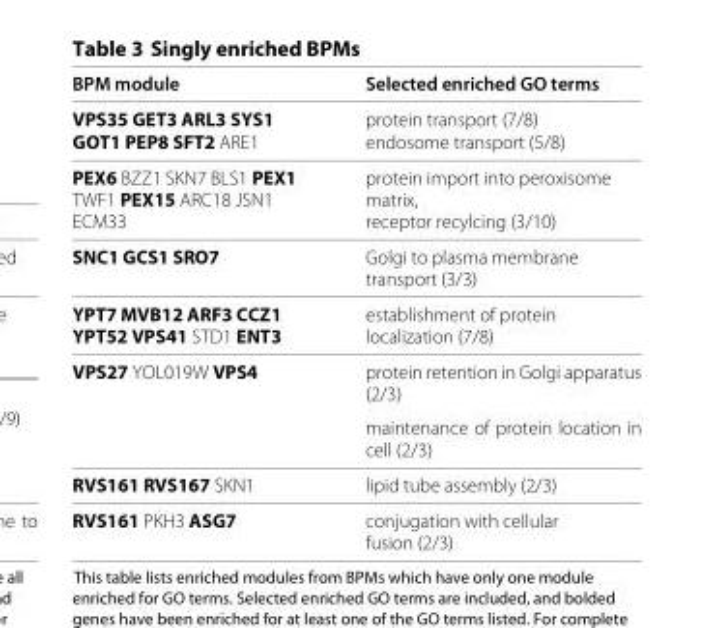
<table><thead><tr><td>BPM module</td><td>Selected enriched GO terms</td></tr></thead><tbody><tr><td>VPS35 GET3 ARL3 SYS1</td><td>protein transport (7/8)</td></tr><tr><td>GOT1 PEP8 SFT2 ARE1</td><td>endosome transport (5/8)</td></tr><tr><td>PEX6 BZZ1 SKN7 BLS1 PEX1 TWF1 PEX15 ARC18 JSN1 ECM33</td><td>protein import into peroxisome matrix, receptor recylcing (3/10)</td></tr><tr><td>SNC1 GCS1 SRO7</td><td>Golgi to plasma membrane transport (3/3)</td></tr><tr><td>YPT7 MVB12 ARF3 CCZ1 YPT52 VPS41 STD1 ENT3</td><td>establishment of protein localization (7/8)</td></tr><tr><td rowspan="2">VPS27 YOL019W VPS4</td><td>protein retention in Golgi apparatus (2/3)</td></tr><tr><td>maintenance of protein location in cell (2/3)</td></tr><tr><td>RVS161 RVS167 SKN1</td><td>lipid tube assembly (2/3)</td></tr><tr><td>RVS161 PKH3 ASG7</td><td>conjugation with cellular fusion (2/3)</td></tr></tbody></table>